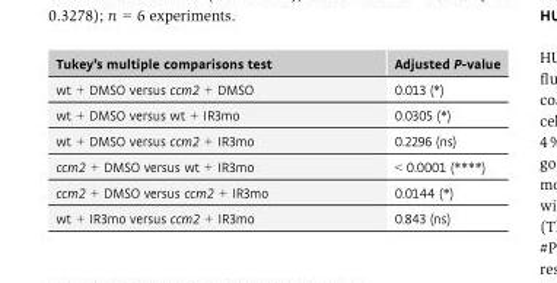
<table><thead><tr><td>Tukey’s multiple comparisons test</td><td>Adjusted P-value</td></tr></thead><tbody><tr><td>wt + DMSO versus ccm2 + DMSO</td><td>0.013 (*)</td></tr><tr><td>wt + DMSO versus wt + IR3mo</td><td>0.0305 (*)</td></tr><tr><td>wt + DMSO versus ccm2 + IR3mo</td><td>0.2296 (ns)</td></tr><tr><td>ccm2 + DMSO versus wt + IR3mo</td><td>&lt; 0.0001 (****)</td></tr><tr><td>ccm2 + DMSO versus ccm2 + IR3mo</td><td>0.0144 (*)</td></tr><tr><td>wt + IR3mo versus ccm2 + IR3mo</td><td>0.843 (ns)</td></tr></tbody></table>